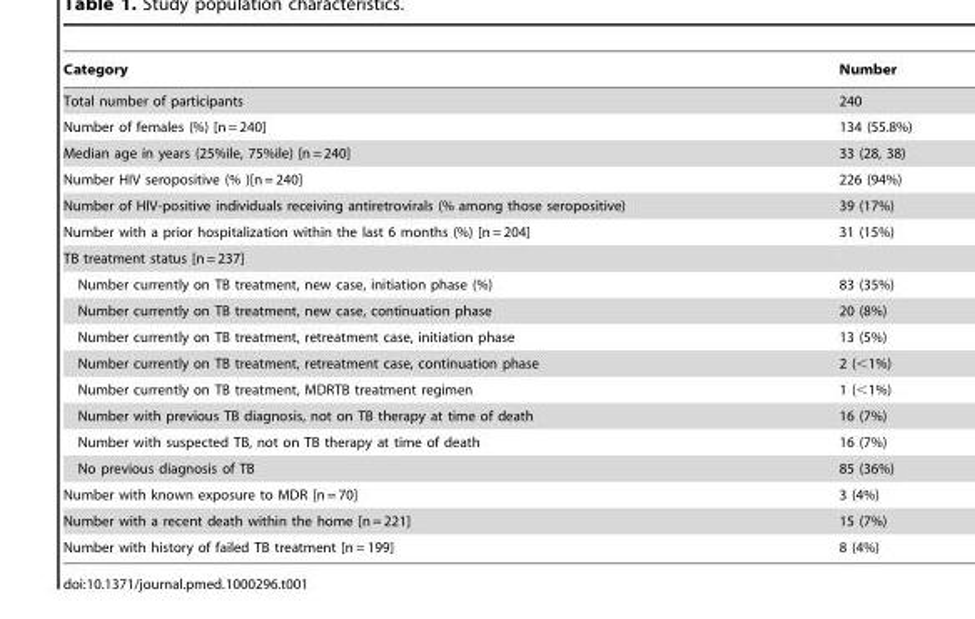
<table><thead><tr><td>Category</td><td>Number</td></tr></thead><tbody><tr><td>Total number of participants</td><td>240</td></tr><tr><td>Number of females (%) [n = 240]</td><td>134 (55.8%)</td></tr><tr><td>Median age in years (25%ile, 75%ile) [n = 240]</td><td>33 (28, 38)</td></tr><tr><td>Number HIV seropositive (% )[n = 240]</td><td>226 (94%)</td></tr><tr><td>Number of HIV-positive individuals receiving antiretrovirals (% among those seropositive)</td><td>39 (17%)</td></tr><tr><td>Number with a prior hospitalization within the last 6 months (%) [n = 204]</td><td>31 (15%)</td></tr><tr><td colspan="2">TB treatment status [n = 237]</td></tr><tr><td>Number currently on TB treatment, new case, initiation phase (%)</td><td>83 (35%)</td></tr><tr><td>Number currently on TB treatment, new case, continuation phase</td><td>20 (8%)</td></tr><tr><td>Number currently on TB treatment, retreatment case, initiation phase</td><td>13 (5%)</td></tr><tr><td>Number currently on TB treatment, retreatment case, continuation phase</td><td>2 (&lt;1%)</td></tr><tr><td>Number currently on TB treatment, MDRTB treatment regimen</td><td>1 (&lt;1%)</td></tr><tr><td>Number with previous TB diagnosis, not on TB therapy at time of death</td><td>16 (7%)</td></tr><tr><td>Number with suspected TB, not on TB therapy at time of death</td><td>16 (7%)</td></tr><tr><td>No previous diagnosis of TB</td><td>85 (36%)</td></tr><tr><td>Number with known exposure to MDR [n = 70]</td><td>3 (4%)</td></tr><tr><td>Number with a recent death within the home [n = 221]</td><td>15 (7%)</td></tr><tr><td>Number with history of failed TB treatment [n = 199]</td><td>8 (4%)</td></tr></tbody></table>